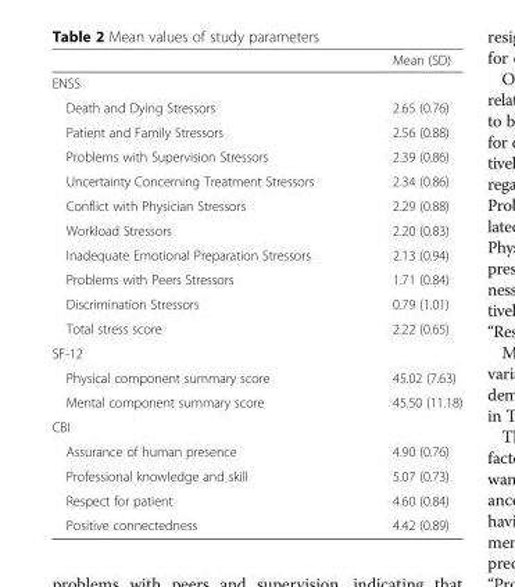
<table><thead><tr><td></td><td>Mean (SD)</td></tr></thead><tbody><tr><td colspan="2">ENSS</td></tr><tr><td>Death and Dying Stressors</td><td>2.65 (0.76)</td></tr><tr><td>Patient and Family Stressors</td><td>2.56 (0.88)</td></tr><tr><td>Problems with Supervision Stressors</td><td>2.39 (0.86)</td></tr><tr><td>Uncertainty Concerning Treatment Stressors</td><td>2.34 (0.86)</td></tr><tr><td>Conflict with Physician Stressors</td><td>2.29 (0.88)</td></tr><tr><td>Workload Stressors</td><td>2.20 (0.83)</td></tr><tr><td>Inadequate Emotional Preparation Stressors</td><td>2.13 (0.94)</td></tr><tr><td>Problems with Peers Stressors</td><td>1.71 (0.84)</td></tr><tr><td>Discrimination Stressors</td><td>0.79 (1.01)</td></tr><tr><td>Total stress score</td><td>2.22 (0.65)</td></tr><tr><td colspan="2">SF-12</td></tr><tr><td>Physical component summary score</td><td>45.02 (7.63)</td></tr><tr><td>Mental component summary score</td><td>45.50 (11.18)</td></tr><tr><td colspan="2">CBI</td></tr><tr><td>Assurance of human presence</td><td>4.90 (0.76)</td></tr><tr><td>Professional knowledge and skill</td><td>5.07 (0.73)</td></tr><tr><td>Respect for patient</td><td>4.60 (0.84)</td></tr><tr><td>Positive connectedness</td><td>4.42 (0.89)</td></tr></tbody></table>